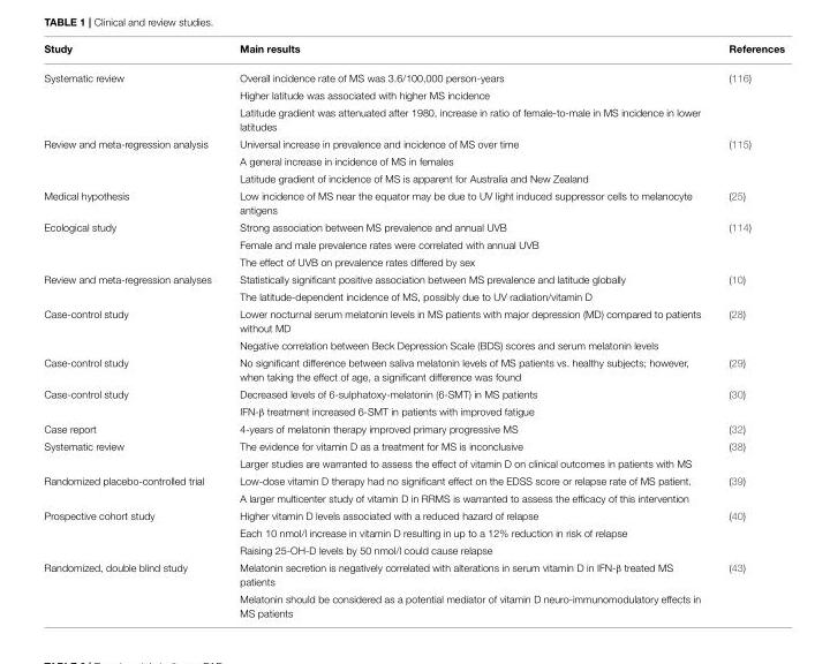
<table><thead><tr><td>Study</td><td>Main results</td><td>References</td></tr></thead><tbody><tr><td rowspan="3">Systematic review</td><td>Overall incidence rate of MS was 3.6/100,000 person-years</td><td>(116)</td></tr><tr><td>Higher latitude was associated with higher MS incidence</td><td></td></tr><tr><td>Latitude gradient was attenuated after 1980, increase in ratio of female-to-male in MS incidence in lower latitudes</td><td></td></tr><tr><td rowspan="3">Review and meta-regression analysis</td><td>Universal increase in prevalence and incidence of MS over time</td><td>(115)</td></tr><tr><td>A general increase in incidence of MS in females</td><td></td></tr><tr><td>Latitude gradient of incidence of MS is apparent for Australia and New Zealand</td><td></td></tr><tr><td>Medical hypothesis</td><td>Low incidence of MS near the equator may be due to UV light induced suppressor cells to melanocyte antigens</td><td>(25)</td></tr><tr><td rowspan="3">Ecological study</td><td>Strong association between MS prevalence and annual UVB</td><td>(114)</td></tr><tr><td>Female and male prevalence rates were correlated with annual UVB</td><td></td></tr><tr><td>The effect of UVB on prevalence rates differed by sex</td><td></td></tr><tr><td rowspan="2">Review and meta-regression analyses</td><td>Statistically significant positive association between MS prevalence and latitude globally</td><td>(10)</td></tr><tr><td>The latitude-dependent incidence of MS, possibly due to UV radiation/vitamin D</td><td></td></tr><tr><td rowspan="2">Case-control study</td><td>Lower nocturnal serum melatonin levels in MS patients with major depression (MD) compared to patients without MD</td><td>(28)</td></tr><tr><td>Negative correlation between Beck Depression Scale (BDS) scores and serum melatonin levels</td><td></td></tr><tr><td>Case-control study</td><td>No significant difference between saliva melatonin levels of MS patients vs. healthy subjects; however, when taking the effect of age, a significant difference was found</td><td>(29)</td></tr><tr><td rowspan="2">Case-control study</td><td>Decreased levels of 6-sulphatoxy-melatonin (6-SMT) in MS patients</td><td>(30)</td></tr><tr><td>IFN-β treatment increased 6-SMT in patients with improved fatigue</td><td></td></tr><tr><td>Case report</td><td>4-years of melatonin therapy improved primary progressive MS</td><td>(32)</td></tr><tr><td rowspan="2">Systematic review</td><td>The evidence for vitamin D as a treatment for MS is inconclusive</td><td>(38)</td></tr><tr><td>Larger studies are warranted to assess the effect of vitamin D on clinical outcomes in patients with MS</td><td></td></tr><tr><td rowspan="2">Randomized placebo-controlled trial</td><td>Low-dose vitamin D therapy had no significant effect on the EDSS score or relapse rate of MS patient.</td><td>(39)</td></tr><tr><td>A larger multicenter study of vitamin D in RRMS is warranted to assess the efficacy of this intervention</td><td></td></tr><tr><td rowspan="3">Prospective cohort study</td><td>Higher vitamin D levels associated with a reduced hazard of relapse</td><td>(40)</td></tr><tr><td>Each 10 nmol/l increase in vitamin D resulting in up to a 12% reduction in risk of relapse</td><td></td></tr><tr><td>Raising 25-OH-D levels by 50 nmol/l could cause relapse</td><td></td></tr><tr><td rowspan="2">Randomized, double blind study</td><td>Melatonin secretion is negatively correlated with alterations in serum vitamin D in IFN-β treated MS patients</td><td>(43)</td></tr><tr><td>Melatonin should be considered as a potential mediator of vitamin D neuro-immunomodulatory effects in MS patients</td><td></td></tr></tbody></table>